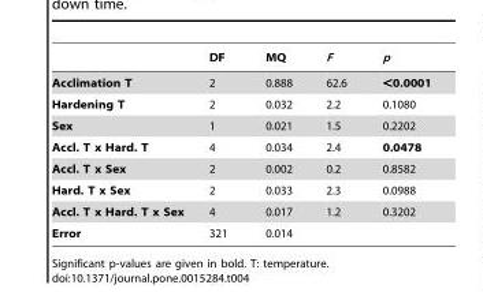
<table><thead><tr><td></td><td>DF</td><td>MQ</td><td>F</td><td>p</td></tr></thead><tbody><tr><td>Acclimation T</td><td>2</td><td>0.888</td><td>62.6</td><td>&lt;0.0001</td></tr><tr><td>Hardening T</td><td>2</td><td>0.032</td><td>2.2</td><td>0.1080</td></tr><tr><td>Sex</td><td>1</td><td>0.021</td><td>1.5</td><td>0.2202</td></tr><tr><td>Accl. T x Hard. T</td><td>4</td><td>0.034</td><td>2.4</td><td>0.0478</td></tr><tr><td>Accl. T x Sex</td><td>2</td><td>0.002</td><td>0.2</td><td>0.8582</td></tr><tr><td>Hard. T x Sex</td><td>2</td><td>0.033</td><td>2.3</td><td>0.0988</td></tr><tr><td>Accl. T x Hard. T x Sex</td><td>4</td><td>0.017</td><td>1.2</td><td>0.3202</td></tr><tr><td>Error</td><td>321</td><td>0.014</td><td></td><td></td></tr></tbody></table>